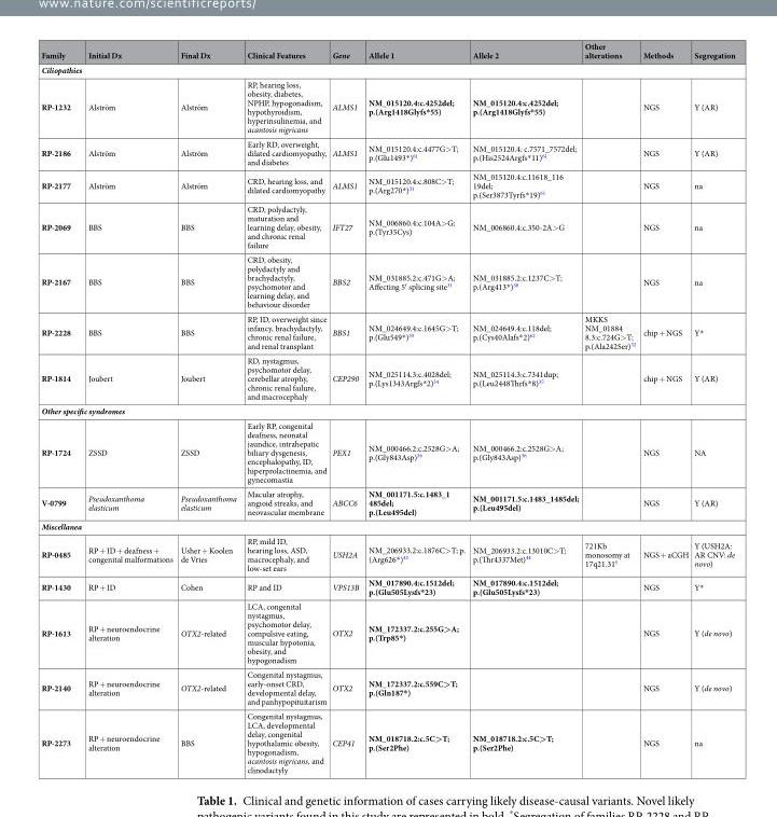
<table><thead><tr><td>Family</td><td>Initial Dx</td><td>Final Dx</td><td>Clinical Features</td><td>Gene</td><td>Allele 1</td><td>Allele 2</td><td>Other alterations</td><td>Methods</td><td>Segregation</td></tr></thead><tbody><tr><td colspan="10">Ciliopathies</td></tr><tr><td>RP-1232</td><td>Alström</td><td>Alström</td><td>RP, hearing loss, obesity, diabetes, NPHP, hypogonadism, hypothyroidism, hyperinsulinemia, and acantosis nigricans</td><td>ALMS1</td><td>NM_015120.4:c.4252del; p.(Arg1418Glyfs*55)</td><td>NM_015120.4:c.4252del; p.(Arg1418Glyfs*55)</td><td></td><td>NGS</td><td>Y (AR)</td></tr><tr><td>RP-2186</td><td>Alström</td><td>Alström</td><td>Early RD, overweight, dilated cardiomyopathy, and diabetes</td><td>ALMS1</td><td>NM_015120.4:c.4477G&gt;T; p.(Glu1493*)<sup>61</sup></td><td>NM_015120.4: c.7571_7572del; p.(His2524Argfs*11)<sup>61</sup></td><td></td><td>NGS</td><td>Y (AR)</td></tr><tr><td>RP-2177</td><td>Alström</td><td>Alström</td><td>CRD, hearing loss, and dilated cardiomyopathy</td><td>ALMS1</td><td>NM_015120.4:c.808C&gt;T; p.(Arg270*)<sup>31</sup></td><td>NM_015120.4:c.11618_116 19del; p.(Ser3873Tyrfs*19)<sup>61</sup></td><td></td><td>NGS</td><td>na</td></tr><tr><td>RP-2069</td><td>BBS</td><td>BBS</td><td>CRD, polydactyly, maturation and learning delay, obesity, and chronic renal failure</td><td>IFT27</td><td>NM_006860.4:c.104A&gt;G; p.(Tyr35Cys)</td><td>NM_006860.4:c.350-2A&gt;G</td><td></td><td>NGS</td><td>na</td></tr><tr><td>RP-2167</td><td>BBS</td><td>BBS</td><td>CRD, obesity, polydactyly and brachydactyly, psychomotor and learning delay, and behaviour disorder</td><td>BBS2</td><td>NM_031885.2:c.471G&gt;A; Affecting 5′ splicing site<sup>31</sup></td><td>NM_031885.2:c.1237C&gt;T; p.(Arg413*)<sup>30</sup></td><td></td><td>NGS</td><td>na</td></tr><tr><td>RP-2228</td><td>BBS</td><td>BBS</td><td>RP, ID, overweight since infancy, brachydactyly, chronic renal failure, and renal transplant</td><td>BBS1</td><td>NM_024649.4:c.1645G&gt;T; p.(Glu549*)<sup>33</sup></td><td>NM_024649.4:c.118del; p.(Cys40Alafs*2)<sup>62</sup></td><td>MKKS NM_01884 8.3:c.724G&gt;T; p.(Ala242Ser)<sup>32</sup></td><td>chip + NGS</td><td>Y*</td></tr><tr><td>RP-1814</td><td>Joubert</td><td>Joubert</td><td>RD, nystagmus, psychomotor delay, cerebellar atrophy, chronic renal failure, and macrocephaly</td><td>CEP290</td><td>NM_025114.3:c.4028del; p.(Lys1343Argfs*2)<sup>34</sup></td><td>NM_025114.3:c.7341dup; p.(Leu2448Thrfs*8)<sup>35</sup></td><td></td><td>chip + NGS</td><td>Y (AR)</td></tr><tr><td colspan="10">Other specific syndromes</td></tr><tr><td>RP-1724</td><td>ZSSD</td><td>ZSSD</td><td>Early RP, congenital deafness, neonatal jaundice, intrahepatic biliary dysgenesis, encephalopathy, ID, hiperprolactinemia, and gynecomastia</td><td>PEX1</td><td>NM_000466.2:c.2528G&gt;A; p.(Gly843Asp)<sup>36</sup></td><td>NM_000466.2:c.2528G&gt;A; p.(Gly843Asp)<sup>36</sup></td><td></td><td>NGS</td><td>NA</td></tr><tr><td>V-0799</td><td>Pseudoxanthoma elasticum</td><td>Pseudoxanthoma elasticum</td><td>Macular atrophy, angioid streaks, and neovascular membrane</td><td>ABCC6</td><td>NM_001171.5:c.1483_1 485del; p.(Leu495del)</td><td>NM_001171.5:c.1483_1485del; p.(Leu495del)</td><td></td><td>NGS</td><td>Y (AR)</td></tr><tr><td colspan="10">Miscellanea</td></tr><tr><td>RP-0485</td><td>RP + ID + deafness + congenital malformations</td><td>Usher + Koolen de Vries</td><td>RP, mild ID, hearing loss, ASD, macrocephaly, and low-set ears</td><td>USH2A</td><td>NM_206933.2:c.1876C&gt;T; p. (Arg626*)<sup>43</sup></td><td>NM_206933.2:c.13010C&gt;T; p.(Thr4337Met)<sup>44</sup></td><td>721Kb monosomy at 17q21.31<sup>†</sup></td><td>NGS + aCGH</td><td>Y (USH2A: AR CNV: de novo)</td></tr><tr><td>RP-1430</td><td>RP + ID</td><td>Cohen</td><td>RP and ID</td><td>VPS13B</td><td>NM_017890.4:c.1512del; p.(Glu505Lysfs*23)</td><td>NM_017890.4:c.1512del; p.(Glu505Lysfs*23)</td><td></td><td>NGS</td><td>Y*</td></tr><tr><td>RP-1613</td><td>RP + neuroendocrine alteration</td><td>OTX2-related</td><td>LCA, congenital nystagmus, psychomotor delay, compulsive eating, muscular hypotonia, obesity, and hypogonadism</td><td>OTX2</td><td>NM_172337.2:c.255G&gt;A; p.(Trp85*)</td><td></td><td></td><td>NGS</td><td>Y (de novo)</td></tr><tr><td>RP-2140</td><td>RP + neuroendocrine alteration</td><td>OTX2-related</td><td>Congenital nystagmus, early-onset CRD, developmental delay, and panhypopituitarism</td><td>OTX2</td><td>NM_172337.2:c.559C&gt;T; p.(Gln187*)</td><td></td><td></td><td>NGS</td><td>Y (de novo)</td></tr><tr><td>RP-2273</td><td>RP + neuroendocrine alteration</td><td>BBS</td><td>Congenital nystagmus, LCA, developmental delay, congenital hypothalamic obesity, hypogonadism, acantosis nigricans, and clinodactyly</td><td>CEP41</td><td>NM_018718.2:c.5C&gt;T; p.(Ser2Phe)</td><td>NM_018718.2:c.5C&gt;T; p.(Ser2Phe)</td><td></td><td>NGS</td><td>na</td></tr></tbody></table>